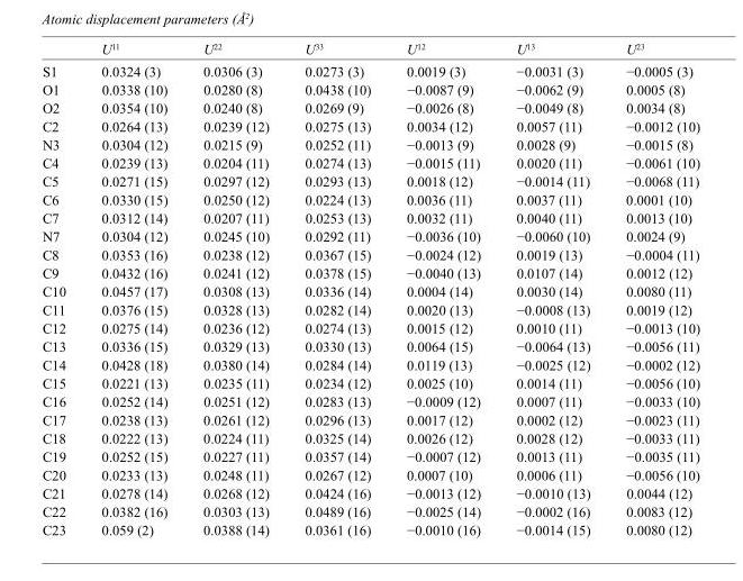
<table><thead><tr><td></td><td>U<sup>11</sup></td><td>U<sup>22</sup></td><td>U<sup>33</sup></td><td>U<sup>12</sup></td><td>U<sup>13</sup></td><td>U<sup>23</sup></td></tr></thead><tbody><tr><td>S1</td><td>0.0324 (3)</td><td>0.0306 (3)</td><td>0.0273 (3)</td><td>0.0019 (3)</td><td>−0.0031 (3)</td><td>−0.0005 (3)</td></tr><tr><td>O1</td><td>0.0338 (10)</td><td>0.0280 (8)</td><td>0.0438 (10)</td><td>−0.0087 (9)</td><td>−0.0062 (9)</td><td>0.0005 (8)</td></tr><tr><td>O2</td><td>0.0354 (10)</td><td>0.0240 (8)</td><td>0.0269 (9)</td><td>−0.0026 (8)</td><td>−0.0049 (8)</td><td>0.0034 (8)</td></tr><tr><td>C2</td><td>0.0264 (13)</td><td>0.0239 (12)</td><td>0.0275 (13)</td><td>0.0034 (12)</td><td>0.0057 (11)</td><td>−0.0012 (10)</td></tr><tr><td>N3</td><td>0.0304 (12)</td><td>0.0215 (9)</td><td>0.0252 (11)</td><td>−0.0013 (9)</td><td>0.0028 (9)</td><td>−0.0015 (8)</td></tr><tr><td>C4</td><td>0.0239 (13)</td><td>0.0204 (11)</td><td>0.0274 (13)</td><td>−0.0015 (11)</td><td>0.0020 (11)</td><td>−0.0061 (10)</td></tr><tr><td>C5</td><td>0.0271 (15)</td><td>0.0297 (12)</td><td>0.0293 (13)</td><td>0.0018 (12)</td><td>−0.0014 (11)</td><td>−0.0068 (11)</td></tr><tr><td>C6</td><td>0.0330 (15)</td><td>0.0250 (12)</td><td>0.0224 (13)</td><td>0.0036 (11)</td><td>0.0037 (11)</td><td>0.0001 (10)</td></tr><tr><td>C7</td><td>0.0312 (14)</td><td>0.0207 (11)</td><td>0.0253 (13)</td><td>0.0032 (11)</td><td>0.0040 (11)</td><td>0.0013 (10)</td></tr><tr><td>N7</td><td>0.0304 (12)</td><td>0.0245 (10)</td><td>0.0292 (11)</td><td>−0.0036 (10)</td><td>−0.0060 (10)</td><td>0.0024 (9)</td></tr><tr><td>C8</td><td>0.0353 (16)</td><td>0.0238 (12)</td><td>0.0367 (15)</td><td>−0.0024 (12)</td><td>0.0019 (13)</td><td>−0.0004 (11)</td></tr><tr><td>C9</td><td>0.0432 (16)</td><td>0.0241 (12)</td><td>0.0378 (15)</td><td>−0.0040 (13)</td><td>0.0107 (14)</td><td>0.0012 (12)</td></tr><tr><td>C10</td><td>0.0457 (17)</td><td>0.0308 (13)</td><td>0.0336 (14)</td><td>0.0004 (14)</td><td>0.0030 (14)</td><td>0.0080 (11)</td></tr><tr><td>C11</td><td>0.0376 (15)</td><td>0.0328 (13)</td><td>0.0282 (14)</td><td>0.0020 (13)</td><td>−0.0008 (13)</td><td>0.0019 (12)</td></tr><tr><td>C12</td><td>0.0275 (14)</td><td>0.0236 (12)</td><td>0.0274 (13)</td><td>0.0015 (12)</td><td>0.0010 (11)</td><td>−0.0013 (10)</td></tr><tr><td>C13</td><td>0.0336 (15)</td><td>0.0329 (13)</td><td>0.0330 (13)</td><td>0.0064 (15)</td><td>−0.0064 (13)</td><td>−0.0056 (11)</td></tr><tr><td>C14</td><td>0.0428 (18)</td><td>0.0380 (14)</td><td>0.0284 (14)</td><td>0.0119 (13)</td><td>−0.0025 (12)</td><td>−0.0002 (12)</td></tr><tr><td>C15</td><td>0.0221 (13)</td><td>0.0235 (11)</td><td>0.0234 (12)</td><td>0.0025 (10)</td><td>0.0014 (11)</td><td>−0.0056 (10)</td></tr><tr><td>C16</td><td>0.0252 (14)</td><td>0.0251 (12)</td><td>0.0283 (13)</td><td>−0.0009 (12)</td><td>0.0007 (11)</td><td>−0.0033 (10)</td></tr><tr><td>C17</td><td>0.0238 (13)</td><td>0.0261 (12)</td><td>0.0296 (13)</td><td>0.0017 (12)</td><td>0.0002 (12)</td><td>−0.0023 (11)</td></tr><tr><td>C18</td><td>0.0222 (13)</td><td>0.0224 (11)</td><td>0.0325 (14)</td><td>0.0026 (12)</td><td>0.0028 (12)</td><td>−0.0033 (11)</td></tr><tr><td>C19</td><td>0.0252 (15)</td><td>0.0227 (11)</td><td>0.0357 (14)</td><td>−0.0007 (12)</td><td>0.0013 (11)</td><td>−0.0035 (11)</td></tr><tr><td>C20</td><td>0.0233 (13)</td><td>0.0248 (11)</td><td>0.0267 (12)</td><td>0.0007 (10)</td><td>0.0006 (11)</td><td>−0.0056 (10)</td></tr><tr><td>C21</td><td>0.0278 (14)</td><td>0.0268 (12)</td><td>0.0424 (16)</td><td>−0.0013 (12)</td><td>−0.0010 (13)</td><td>0.0044 (12)</td></tr><tr><td>C22</td><td>0.0382 (16)</td><td>0.0303 (13)</td><td>0.0489 (16)</td><td>−0.0025 (14)</td><td>−0.0002 (16)</td><td>0.0083 (12)</td></tr><tr><td>C23</td><td>0.059 (2)</td><td>0.0388 (14)</td><td>0.0361 (16)</td><td>−0.0010 (16)</td><td>−0.0014 (15)</td><td>0.0080 (12)</td></tr></tbody></table>